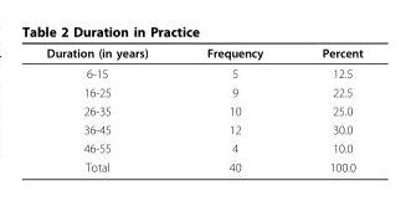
<table><thead><tr><td>Duration (in years)</td><td>Frequency</td><td>Percent</td></tr></thead><tbody><tr><td>6-15</td><td>5</td><td>12.5</td></tr><tr><td>16-25</td><td>9</td><td>22.5</td></tr><tr><td>26-35</td><td>10</td><td>25.0</td></tr><tr><td>36-45</td><td>12</td><td>30.0</td></tr><tr><td>46-55</td><td>4</td><td>10.0</td></tr><tr><td>Total</td><td>40</td><td>100.0</td></tr></tbody></table>